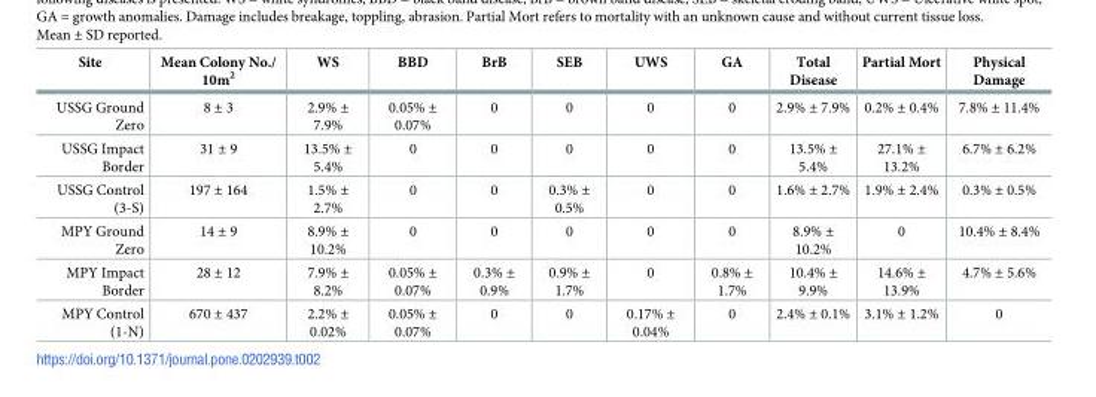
<table><thead><tr><td>Site</td><td>Mean Colony No./ 10m<sup>2</sup></td><td>WS</td><td>BBD</td><td>BrB</td><td>SEB</td><td>UWS</td><td>GA</td><td>Total Disease</td><td>Partial Mort</td><td>Physical Damage</td></tr></thead><tbody><tr><td>USSG Ground Zero</td><td>8 ± 3</td><td>2.9% ± 7.9%</td><td>0.05% ± 0.07%</td><td>0</td><td>0</td><td>0</td><td>0</td><td>2.9% ± 7.9%</td><td>0.2% ± 0.4%</td><td>7.8% ± 11.4%</td></tr><tr><td>USSG Impact Border</td><td>31 ± 9</td><td>13.5% ± 5.4%</td><td>0</td><td>0</td><td>0</td><td>0</td><td>0</td><td>13.5% ± 5.4%</td><td>27.1% ± 13.2%</td><td>6.7% ± 6.2%</td></tr><tr><td>USSG Control (3-S)</td><td>197 ± 164</td><td>1.5% ± 2.7%</td><td>0</td><td>0</td><td>0.3% ± 0.5%</td><td>0</td><td>0</td><td>1.6% ± 2.7%</td><td>1.9% ± 2.4%</td><td>0.3% ± 0.5%</td></tr><tr><td>MPY Ground Zero</td><td>14 ± 9</td><td>8.9% ± 10.2%</td><td>0</td><td>0</td><td>0</td><td>0</td><td>0</td><td>8.9% ± 10.2%</td><td>0</td><td>10.4% ± 8.4%</td></tr><tr><td>MPY Impact Border</td><td>28 ± 12</td><td>7.9% ± 8.2%</td><td>0.05% ± 0.07%</td><td>0.3% ± 0.9%</td><td>0.9% ± 1.7%</td><td>0</td><td>0.8% ± 1.7%</td><td>10.4% ± 9.9%</td><td>14.6% ± 13.9%</td><td>4.7% ± 5.6%</td></tr><tr><td>MPY Control (1-N)</td><td>670 ± 437</td><td>2.2% ± 0.02%</td><td>0.05% ± 0.07%</td><td>0</td><td>0</td><td>0.17% ± 0.04%</td><td>0</td><td>2.4% ± 0.1%</td><td>3.1% ± 1.2%</td><td>0</td></tr></tbody></table>